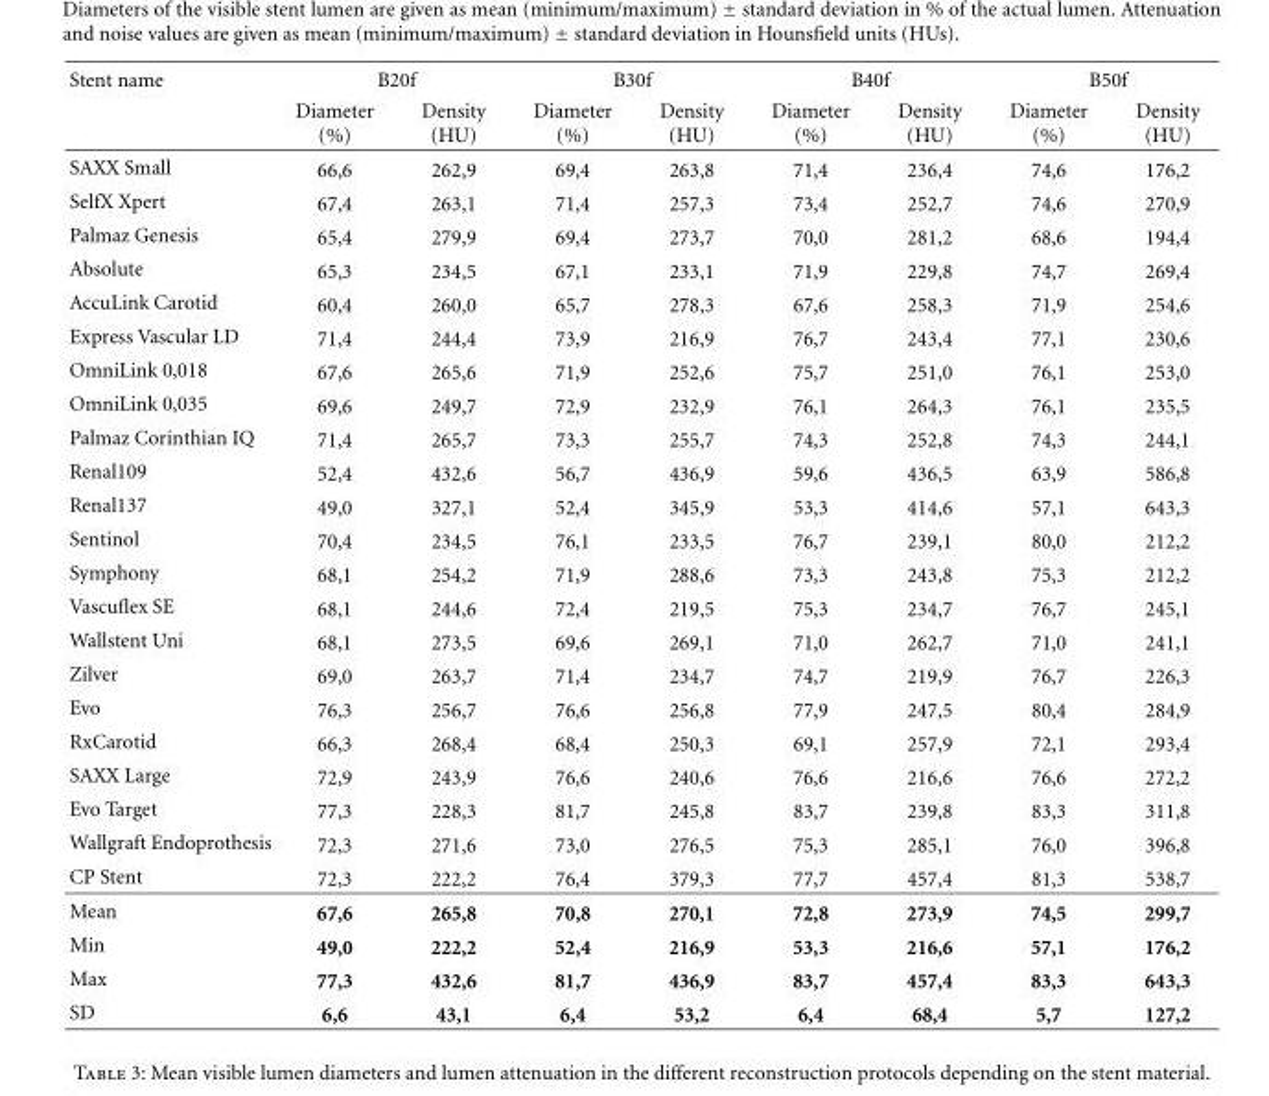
<table><thead><tr><td rowspan="2">Stent name</td><td colspan="2">B20f</td><td colspan="2">B30f</td><td colspan="2">B40f</td><td colspan="2">B50f</td></tr><tr><td>Diameter (%)</td><td>Density (HU)</td><td>Diameter (%)</td><td>Density (HU)</td><td>Diameter (%)</td><td>Density (HU)</td><td>Diameter (%)</td><td>Density (HU)</td></tr></thead><tbody><tr><td>SAXX Small</td><td>66,6</td><td>262,9</td><td>69,4</td><td>263,8</td><td>71,4</td><td>236,4</td><td>74,6</td><td>176,2</td></tr><tr><td>SelfX Xpert</td><td>67,4</td><td>263,1</td><td>71,4</td><td>257,3</td><td>73,4</td><td>252,7</td><td>74,6</td><td>270,9</td></tr><tr><td>Palmaz Genesis</td><td>65,4</td><td>279,9</td><td>69,4</td><td>273,7</td><td>70,0</td><td>281,2</td><td>68,6</td><td>194,4</td></tr><tr><td>Absolute</td><td>65,3</td><td>234,5</td><td>67,1</td><td>233,1</td><td>71,9</td><td>229,8</td><td>74,7</td><td>269,4</td></tr><tr><td>AccuLink Carotid</td><td>60,4</td><td>260,0</td><td>65,7</td><td>278,3</td><td>67,6</td><td>258,3</td><td>71,9</td><td>254,6</td></tr><tr><td>Express Vascular LD</td><td>71,4</td><td>244,4</td><td>73,9</td><td>216,9</td><td>76,7</td><td>243,4</td><td>77,1</td><td>230,6</td></tr><tr><td>OmniLink 0,018</td><td>67,6</td><td>265,6</td><td>71,9</td><td>252,6</td><td>75,7</td><td>251,0</td><td>76,1</td><td>253,0</td></tr><tr><td>OmniLink 0,035</td><td>69,6</td><td>249,7</td><td>72,9</td><td>232,9</td><td>76,1</td><td>264,3</td><td>76,1</td><td>235,5</td></tr><tr><td>Palmaz Corinthian IQ</td><td>71,4</td><td>265,7</td><td>73,3</td><td>255,7</td><td>74,3</td><td>252,8</td><td>74,3</td><td>244,1</td></tr><tr><td>Renal109</td><td>52,4</td><td>432,6</td><td>56,7</td><td>436,9</td><td>59,6</td><td>436,5</td><td>63,9</td><td>586,8</td></tr><tr><td>Renal137</td><td>49,0</td><td>327,1</td><td>52,4</td><td>345,9</td><td>53,3</td><td>414,6</td><td>57,1</td><td>643,3</td></tr><tr><td>Sentinol</td><td>70,4</td><td>234,5</td><td>76,1</td><td>233,5</td><td>76,7</td><td>239,1</td><td>80,0</td><td>212,2</td></tr><tr><td>Symphony</td><td>68,1</td><td>254,2</td><td>71,9</td><td>288,6</td><td>73,3</td><td>243,8</td><td>75,3</td><td>212,2</td></tr><tr><td>Vascuflex SE</td><td>68,1</td><td>244,6</td><td>72,4</td><td>219,5</td><td>75,3</td><td>234,7</td><td>76,7</td><td>245,1</td></tr><tr><td>Wallstent Uni</td><td>68,1</td><td>273,5</td><td>69,6</td><td>269,1</td><td>71,0</td><td>262,7</td><td>71,0</td><td>241,1</td></tr><tr><td>Zilver</td><td>69,0</td><td>263,7</td><td>71,4</td><td>234,7</td><td>74,7</td><td>219,9</td><td>76,7</td><td>226,3</td></tr><tr><td>Evo</td><td>76,3</td><td>256,7</td><td>76,6</td><td>256,8</td><td>77,9</td><td>247,5</td><td>80,4</td><td>284,9</td></tr><tr><td>RxCarotid</td><td>66,3</td><td>268,4</td><td>68,4</td><td>250,3</td><td>69,1</td><td>257,9</td><td>72,1</td><td>293,4</td></tr><tr><td>SAXX Large</td><td>72,9</td><td>243,9</td><td>76,6</td><td>240,6</td><td>76,6</td><td>216,6</td><td>76,6</td><td>272,2</td></tr><tr><td>Evo Target</td><td>77,3</td><td>228,3</td><td>81,7</td><td>245,8</td><td>83,7</td><td>239,8</td><td>83,3</td><td>311,8</td></tr><tr><td>Wallgraft Endoprothesis</td><td>72,3</td><td>271,6</td><td>73,0</td><td>276,5</td><td>75,3</td><td>285,1</td><td>76,0</td><td>396,8</td></tr><tr><td>CP Stent</td><td>72,3</td><td>222,2</td><td>76,4</td><td>379,3</td><td>77,7</td><td>457,4</td><td>81,3</td><td>538,7</td></tr><tr><td>Mean</td><td>67,6</td><td>265,8</td><td>70,8</td><td>270,1</td><td>72,8</td><td>273,9</td><td>74,5</td><td>299,7</td></tr><tr><td>Min</td><td>49,0</td><td>222,2</td><td>52,4</td><td>216,9</td><td>53,3</td><td>216,6</td><td>57,1</td><td>176,2</td></tr><tr><td>Max</td><td>77,3</td><td>432,6</td><td>81,7</td><td>436,9</td><td>83,7</td><td>457,4</td><td>83,3</td><td>643,3</td></tr><tr><td>SD</td><td>6,6</td><td>43,1</td><td>6,4</td><td>53,2</td><td>6,4</td><td>68,4</td><td>5,7</td><td>127,2</td></tr></tbody></table>